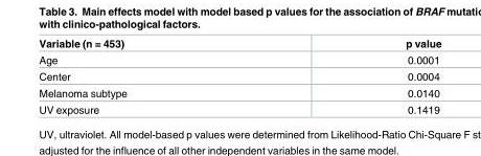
<table><thead><tr><td>Variable (n = 453)</td><td>p value</td></tr></thead><tbody><tr><td>Age</td><td>0.0001</td></tr><tr><td>Center</td><td>0.0004</td></tr><tr><td>Melanoma subtype</td><td>0.0140</td></tr><tr><td>UV exposure</td><td>0.1419</td></tr></tbody></table>